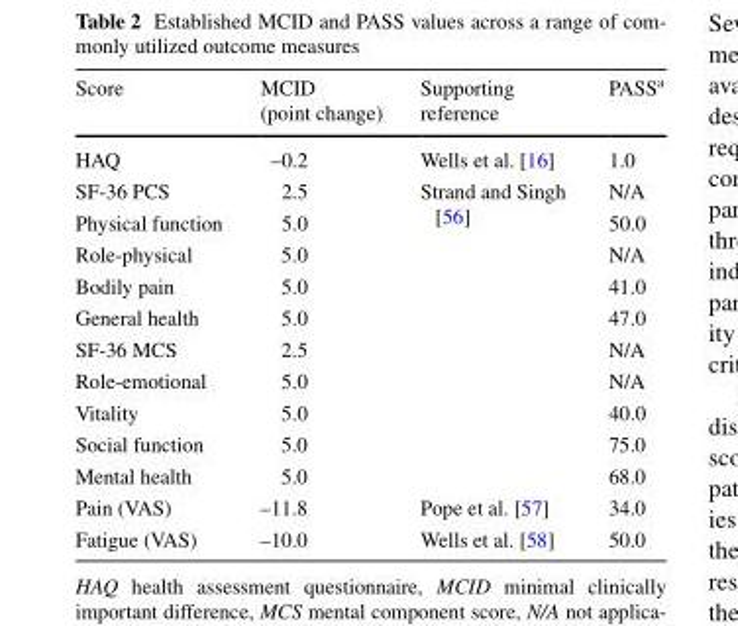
<table><thead><tr><td>Score</td><td>MCID (point change)</td><td>Supporting reference</td><td>PASS<sup>a</sup></td></tr></thead><tbody><tr><td>HAQ</td><td>–0.2</td><td>Wells et al. [16]</td><td>1.0</td></tr><tr><td>SF-36 PCS</td><td>2.5</td><td rowspan="10">Strand and Singh [56]</td><td>N/A</td></tr><tr><td>Physical function</td><td>5.0</td><td>50.0</td></tr><tr><td>Role-physical</td><td>5.0</td><td>N/A</td></tr><tr><td>Bodily pain</td><td>5.0</td><td>41.0</td></tr><tr><td>General health</td><td>5.0</td><td>47.0</td></tr><tr><td>SF-36 MCS</td><td>2.5</td><td>N/A</td></tr><tr><td>Role-emotional</td><td>5.0</td><td>N/A</td></tr><tr><td>Vitality</td><td>5.0</td><td>40.0</td></tr><tr><td>Social function</td><td>5.0</td><td>75.0</td></tr><tr><td>Mental health</td><td>5.0</td><td>68.0</td></tr><tr><td>Pain (VAS)</td><td>–11.8</td><td>Pope et al. [57]</td><td>34.0</td></tr><tr><td>Fatigue (VAS)</td><td>–10.0</td><td>Wells et al. [58]</td><td>50.0</td></tr></tbody></table>